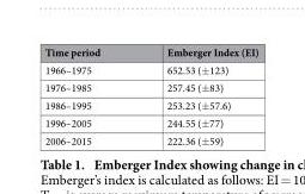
<table><thead><tr><td>Time period</td><td>Emberger Index (EI)</td></tr></thead><tbody><tr><td>1966–1975</td><td>652.53 (± 123)</td></tr><tr><td>1976–1985</td><td>257.45 (± 83)</td></tr><tr><td>1986–1995</td><td>253.23 (± 57.6)</td></tr><tr><td>1996–2005</td><td>244.55 (± 77)</td></tr><tr><td>2006–2015</td><td>222.36 (± 59)</td></tr></tbody></table>